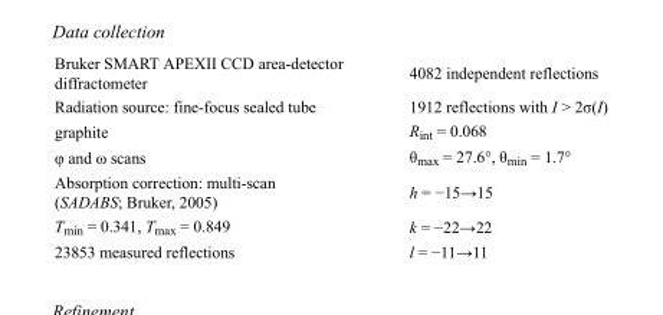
<table><tbody><tr><td>Bruker SMART APEXII CCD area-detector diffractometer</td><td>4082 independent reflections</td></tr><tr><td>Radiation source: fine-focus sealed tube</td><td>1912 reflections with I &gt; 2σ(I)</td></tr><tr><td>graphite</td><td>R<sub>int</sub> = 0.068</td></tr><tr><td>φ and ω scans</td><td>θ<sub>max</sub> = 27.6°, θ<sub>min</sub> = 1.7°</td></tr><tr><td>Absorption correction: multi-scan (SADABS; Bruker, 2005)</td><td>h = −15→15</td></tr><tr><td>T<sub>min</sub> = 0.341, T<sub>max</sub> = 0.849</td><td>k = −22→22</td></tr><tr><td>23853 measured reflections</td><td>l = −11→11</td></tr></tbody></table>